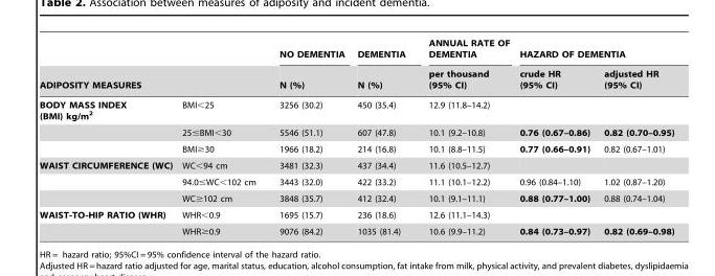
<table><thead><tr><td></td><td></td><td rowspan="2">NO DEMENTIA N (%)</td><td rowspan="2">DEMENTIA N (%)</td><td rowspan="2">ANNUAL RATE OF DEMENTIA per thousand (95% CI)</td><td colspan="2">HAZARD OF DEMENTIA</td></tr><tr><td colspan="2">ADIPOSITY MEASURES</td><td>crude HR (95% CI)</td><td>adjusted HR (95% CI)</td></tr></thead><tbody><tr><td rowspan="3">BODY MASS INDEX (BMI) kg/m<sup>2</sup></td><td>BMI&lt;25</td><td>3256 (30.2)</td><td>450 (35.4)</td><td>12.9 (11.8–14.2)</td><td></td><td></td></tr><tr><td>25≤BMI&lt;30</td><td>5546 (51.1)</td><td>607 (47.8)</td><td>10.1 (9.2–10.8)</td><td>0.76 (0.67–0.86)</td><td>0.82 (0.70–0.95)</td></tr><tr><td>BMI≥30</td><td>1966 (18.2)</td><td>214 (16.8)</td><td>10.1 (8.8–11.5)</td><td>0.77 (0.66–0.91)</td><td>0.82 (0.67–1.01)</td></tr><tr><td rowspan="3">WAIST CIRCUMFERENCE (WC)</td><td>WC&lt;94 cm</td><td>3481 (32.3)</td><td>437 (34.4)</td><td>11.6 (10.5–12.7)</td><td></td><td></td></tr><tr><td>94.0≤WC&lt;102 cm</td><td>3443 (32.0)</td><td>422 (33.2)</td><td>11.1 (10.1–12.2)</td><td>0.96 (0.84–1.10)</td><td>1.02 (0.87–1.20)</td></tr><tr><td>WC≥102 cm</td><td>3848 (35.7)</td><td>412 (32.4)</td><td>10.1 (9.1–11.1)</td><td>0.88 (0.77–1.00)</td><td>0.88 (0.74–1.04)</td></tr><tr><td rowspan="2">WAIST-TO-HIP RATIO (WHR)</td><td>WHR&lt;0.9</td><td>1695 (15.7)</td><td>236 (18.6)</td><td>12.6 (11.1–14.3)</td><td></td><td></td></tr><tr><td>WHR≥0.9</td><td>9076 (84.2)</td><td>1035 (81.4)</td><td>10.6 (9.9–11.2)</td><td>0.84 (0.73–0.97)</td><td>0.82 (0.69–0.98)</td></tr></tbody></table>